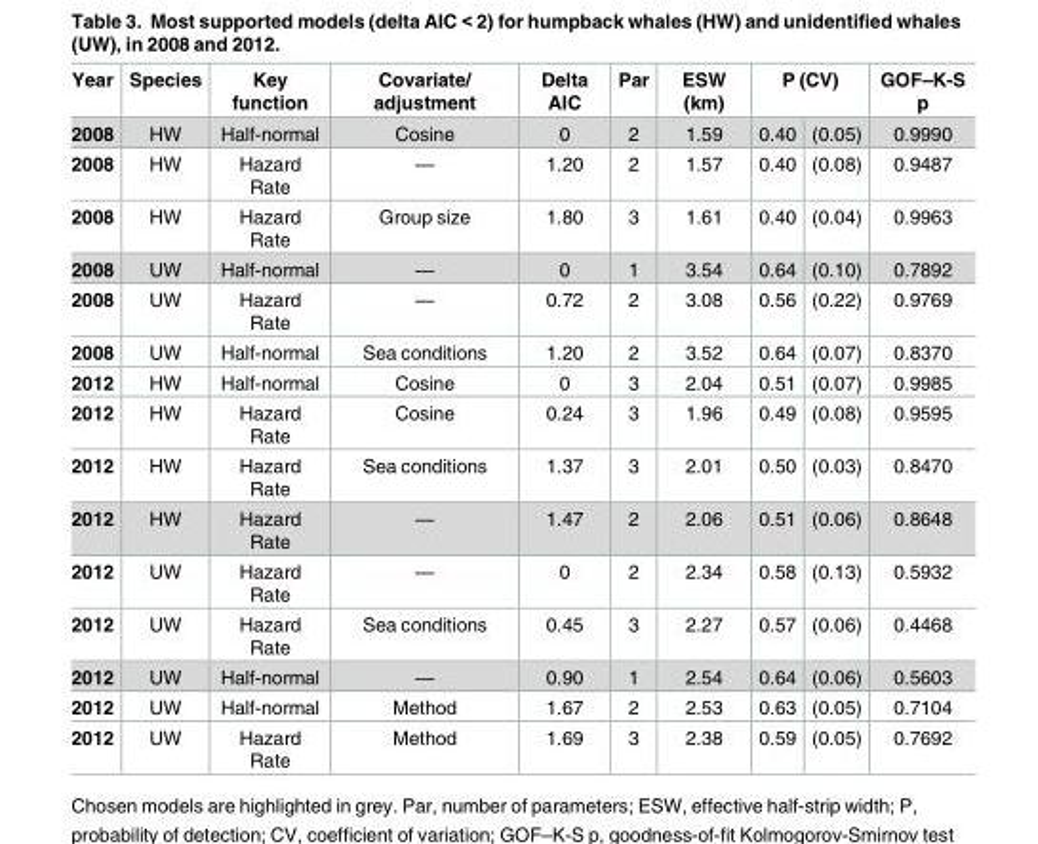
<table><thead><tr><td rowspan="2">Year 2008</td><td rowspan="2">Species HW</td><td rowspan="2">Key function Half-normal</td><td rowspan="2">Covariate/ adjustment Cosine</td><td rowspan="2">Delta AIC 0</td><td rowspan="2">Par 2</td><td rowspan="2">ESW (km) 1.59</td><td colspan="2">P (CV)</td><td rowspan="2">GOF–K-S p 0.9990</td></tr><tr><td>0.40</td><td>(0.05)</td></tr></thead><tbody><tr><td>2008</td><td>HW</td><td>Hazard Rate</td><td>—</td><td>1.20</td><td>2</td><td>1.57</td><td>0.40</td><td>(0.08)</td><td>0.9487</td></tr><tr><td>2008</td><td>HW</td><td>Hazard Rate</td><td>Group size</td><td>1.80</td><td>3</td><td>1.61</td><td>0.40</td><td>(0.04)</td><td>0.9963</td></tr><tr><td>2008</td><td>UW</td><td>Half-normal</td><td>—</td><td>0</td><td>1</td><td>3.54</td><td>0.64</td><td>(0.10)</td><td>0.7892</td></tr><tr><td>2008</td><td>UW</td><td>Hazard Rate</td><td>—</td><td>0.72</td><td>2</td><td>3.08</td><td>0.56</td><td>(0.22)</td><td>0.9769</td></tr><tr><td>2008</td><td>UW</td><td>Half-normal</td><td>Sea conditions</td><td>1.20</td><td>2</td><td>3.52</td><td>0.64</td><td>(0.07)</td><td>0.8370</td></tr><tr><td>2012</td><td>HW</td><td>Half-normal</td><td>Cosine</td><td>0</td><td>3</td><td>2.04</td><td>0.51</td><td>(0.07)</td><td>0.9985</td></tr><tr><td>2012</td><td>HW</td><td>Hazard Rate</td><td>Cosine</td><td>0.24</td><td>3</td><td>1.96</td><td>0.49</td><td>(0.08)</td><td>0.9595</td></tr><tr><td>2012</td><td>HW</td><td>Hazard Rate</td><td>Sea conditions</td><td>1.37</td><td>3</td><td>2.01</td><td>0.50</td><td>(0.03)</td><td>0.8470</td></tr><tr><td>2012</td><td>HW</td><td>Hazard Rate</td><td>—</td><td>1.47</td><td>2</td><td>2.06</td><td>0.51</td><td>(0.06)</td><td>0.8648</td></tr><tr><td>2012</td><td>UW</td><td>Hazard Rate</td><td>—</td><td>0</td><td>2</td><td>2.34</td><td>0.58</td><td>(0.13)</td><td>0.5932</td></tr><tr><td>2012</td><td>UW</td><td>Hazard Rate</td><td>Sea conditions</td><td>0.45</td><td>3</td><td>2.27</td><td>0.57</td><td>(0.06)</td><td>0.4468</td></tr><tr><td>2012</td><td>UW</td><td>Half-normal</td><td>—</td><td>0.90</td><td>1</td><td>2.54</td><td>0.64</td><td>(0.06)</td><td>0.5603</td></tr><tr><td>2012</td><td>UW</td><td>Half-normal</td><td>Method</td><td>1.67</td><td>2</td><td>2.53</td><td>0.63</td><td>(0.05)</td><td>0.7104</td></tr><tr><td>2012</td><td>UW</td><td>Hazard Rate</td><td>Method</td><td>1.69</td><td>3</td><td>2.38</td><td>0.59</td><td>(0.05)</td><td>0.7692</td></tr></tbody></table>